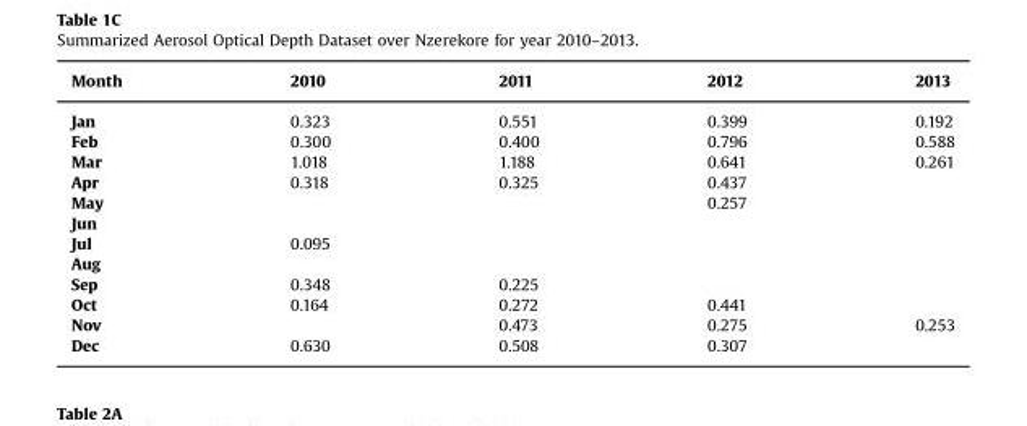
<table><thead><tr><td>Month</td><td>2010</td><td>2011</td><td>2012</td><td>2013</td></tr></thead><tbody><tr><td>Jan</td><td>0.323</td><td>0.551</td><td>0.399</td><td>0.192</td></tr><tr><td>Feb</td><td>0.300</td><td>0.400</td><td>0.796</td><td>0.588</td></tr><tr><td>Mar</td><td>1.018</td><td>1.188</td><td>0.641</td><td>0.261</td></tr><tr><td>Apr</td><td>0.318</td><td>0.325</td><td>0.437</td><td></td></tr><tr><td>May</td><td></td><td></td><td>0.257</td><td></td></tr><tr><td colspan="5">Jun</td></tr><tr><td>Jul</td><td>0.095</td><td></td><td></td><td></td></tr><tr><td colspan="5">Aug</td></tr><tr><td>Sep</td><td>0.348</td><td>0.225</td><td></td><td></td></tr><tr><td>Oct</td><td>0.164</td><td>0.272</td><td>0.441</td><td></td></tr><tr><td>Nov</td><td></td><td>0.473</td><td>0.275</td><td>0.253</td></tr><tr><td>Dec</td><td>0.630</td><td>0.508</td><td>0.307</td><td></td></tr></tbody></table>